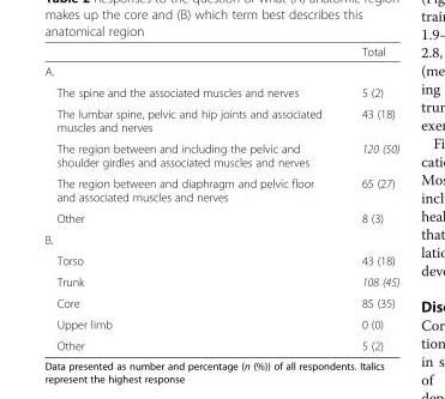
<table><thead><tr><td></td><td>Total</td></tr></thead><tbody><tr><td colspan="2">A.</td></tr><tr><td>The spine and the associated muscles and nerves</td><td>5 (2)</td></tr><tr><td>The lumbar spine, pelvic and hip joints and associated muscles and nerves</td><td>43 (18)</td></tr><tr><td>The region between and including the pelvic and shoulder girdles and associated muscles and nerves</td><td>120 (50)</td></tr><tr><td>The region between and diaphragm and pelvic floor and associated muscles and nerves</td><td>65 (27)</td></tr><tr><td>Other</td><td>8 (3)</td></tr><tr><td colspan="2">B.</td></tr><tr><td>Torso</td><td>43 (18)</td></tr><tr><td>Trunk</td><td>108 (45)</td></tr><tr><td>Core</td><td>85 (35)</td></tr><tr><td>Upper limb</td><td>0 (0)</td></tr><tr><td>Other</td><td>5 (2)</td></tr></tbody></table>